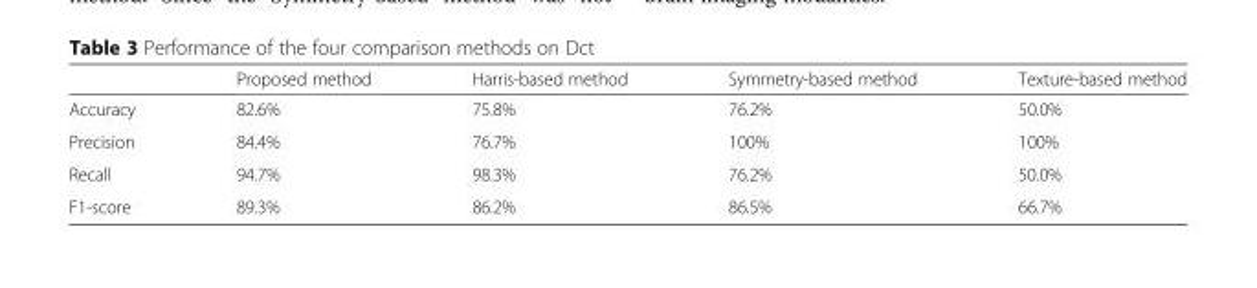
<table><thead><tr><td></td><td>Proposed method</td><td>Harris-based method</td><td>Symmetry-based method</td><td>Texture-based method</td></tr></thead><tbody><tr><td>Accuracy</td><td>82.6%</td><td>75.8%</td><td>76.2%</td><td>50.0%</td></tr><tr><td>Precision</td><td>84.4%</td><td>76.7%</td><td>100%</td><td>100%</td></tr><tr><td>Recall</td><td>94.7%</td><td>98.3%</td><td>76.2%</td><td>50.0%</td></tr><tr><td>F1-score</td><td>89.3%</td><td>86.2%</td><td>86.5%</td><td>66.7%</td></tr></tbody></table>